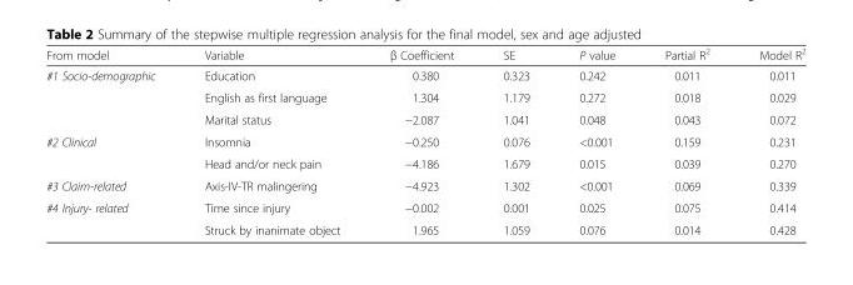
<table><thead><tr><td>From model</td><td>Variable</td><td>β Coefficient</td><td>SE</td><td>P value</td><td>Partial R<sup>2</sup></td><td>Model R<sup>2</sup></td></tr></thead><tbody><tr><td rowspan="3">#1 Socio-demographic</td><td>Education</td><td>0.380</td><td>0.323</td><td>0.242</td><td>0.011</td><td>0.011</td></tr><tr><td>English as first language</td><td>1.304</td><td>1.179</td><td>0.272</td><td>0.018</td><td>0.029</td></tr><tr><td>Marital status</td><td>−2.087</td><td>1.041</td><td>0.048</td><td>0.043</td><td>0.072</td></tr><tr><td rowspan="2">#2 Clinical</td><td>Insomnia</td><td>−0.250</td><td>0.076</td><td>&lt;0.001</td><td>0.159</td><td>0.231</td></tr><tr><td>Head and/or neck pain</td><td>−4.186</td><td>1.679</td><td>0.015</td><td>0.039</td><td>0.270</td></tr><tr><td>#3 Claim-related</td><td>Axis-IV-TR malingering</td><td>−4.923</td><td>1.302</td><td>&lt;0.001</td><td>0.069</td><td>0.339</td></tr><tr><td rowspan="2">#4 Injury- related</td><td>Time since injury</td><td>−0.002</td><td>0.001</td><td>0.025</td><td>0.075</td><td>0.414</td></tr><tr><td>Struck by inanimate object</td><td>1.965</td><td>1.059</td><td>0.076</td><td>0.014</td><td>0.428</td></tr></tbody></table>